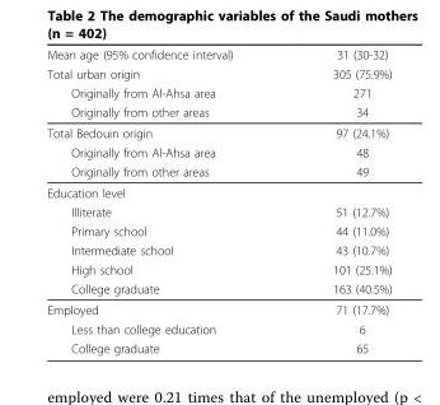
<table><tbody><tr><td>Mean age (95% confidence interval)</td><td>31 (30-32)</td></tr><tr><td>Total urban origin</td><td>305 (75.9%)</td></tr><tr><td>Originally from Al-Ahsa area</td><td>271</td></tr><tr><td>Originally from other areas</td><td>34</td></tr><tr><td>Total Bedouin origin</td><td>97 (24.1%)</td></tr><tr><td>Originally from Al-Ahsa area</td><td>48</td></tr><tr><td>Originally from other areas</td><td>49</td></tr><tr><td colspan="2">Education level</td></tr><tr><td>Illiterate</td><td>51 (12.7%)</td></tr><tr><td>Primary school</td><td>44 (11.0%)</td></tr><tr><td>Intermediate school</td><td>43 (10.7%)</td></tr><tr><td>High school</td><td>101 (25.1%)</td></tr><tr><td>College graduate</td><td>163 (40.5%)</td></tr><tr><td>Employed</td><td>71 (17.7%)</td></tr><tr><td>Less than college education</td><td>6</td></tr><tr><td>College graduate</td><td>65</td></tr></tbody></table>